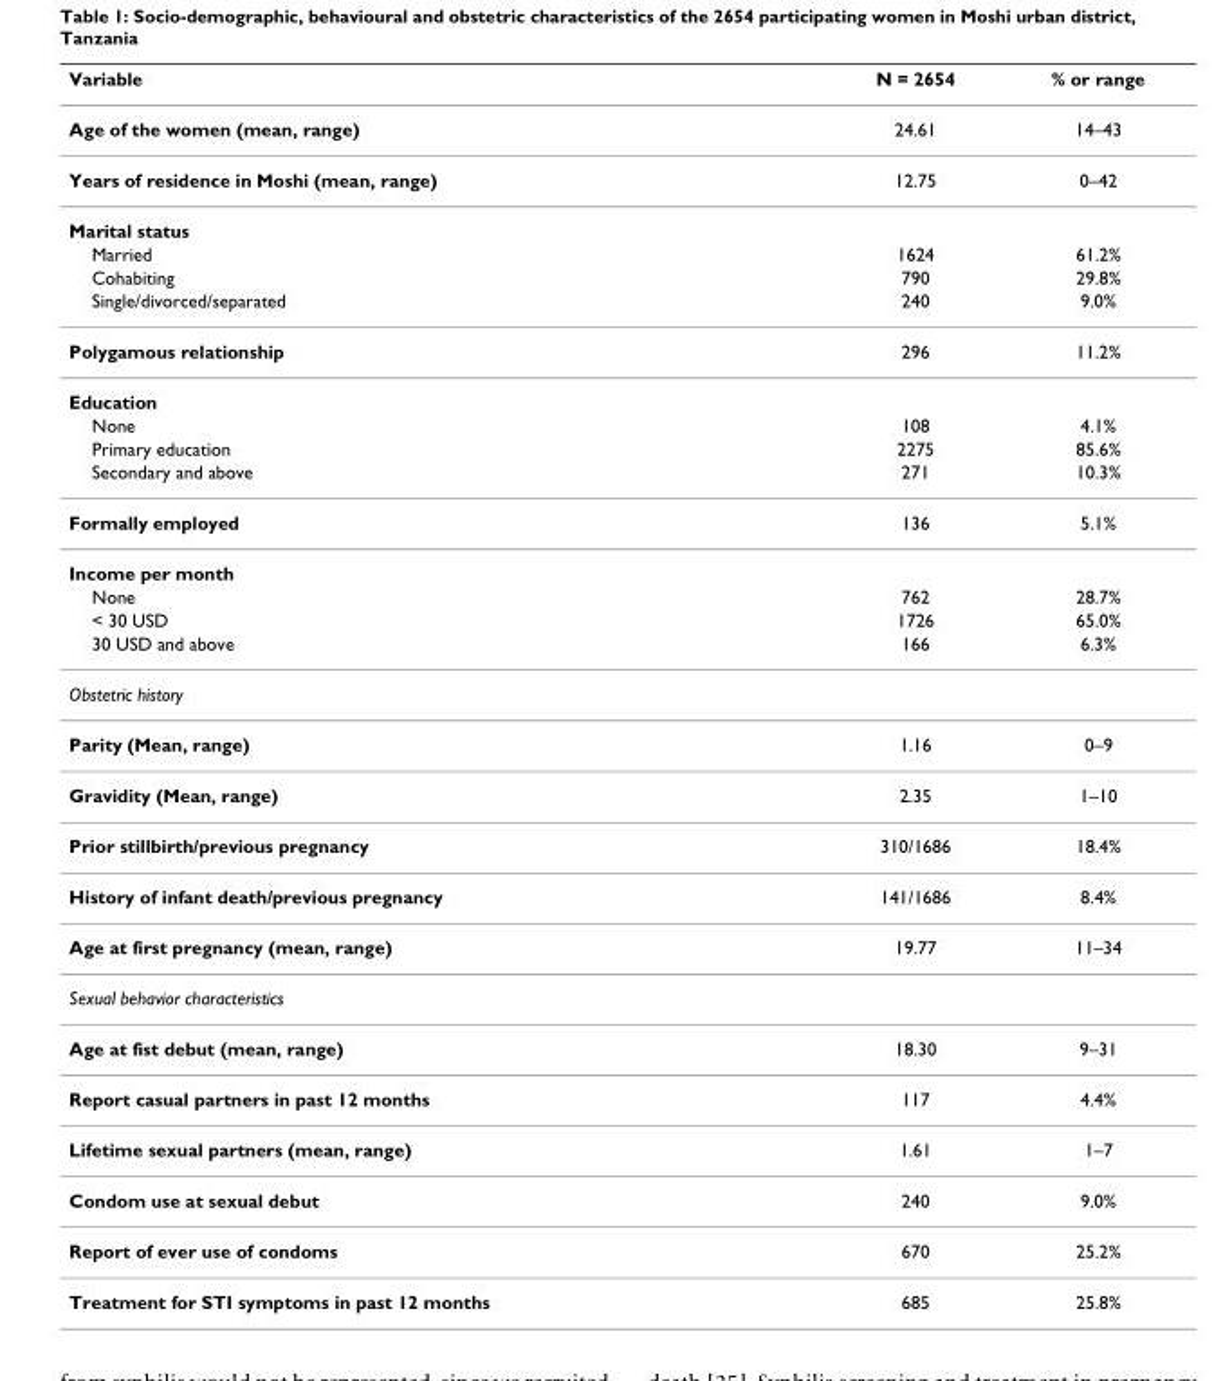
<table><thead><tr><td>Variable</td><td>N = 2654</td><td>% or range</td></tr></thead><tbody><tr><td>Age of the women (mean, range)</td><td>24.61</td><td>14–43</td></tr><tr><td>Years of residence in Moshi (mean, range)</td><td>12.75</td><td>0–42</td></tr><tr><td colspan="3">Marital status</td></tr><tr><td>Married</td><td>1624</td><td>61.2%</td></tr><tr><td>Cohabiting</td><td>790</td><td>29.8%</td></tr><tr><td>Single/divorced/separated</td><td>240</td><td>9.0%</td></tr><tr><td>Polygamous relationship</td><td>296</td><td>11.2%</td></tr><tr><td colspan="3">Education</td></tr><tr><td>None</td><td>108</td><td>4.1%</td></tr><tr><td>Primary education</td><td>2275</td><td>85.6%</td></tr><tr><td>Secondary and above</td><td>271</td><td>10.3%</td></tr><tr><td>Formally employed</td><td>136</td><td>5.1%</td></tr><tr><td colspan="3">Income per month</td></tr><tr><td>None</td><td>762</td><td>28.7%</td></tr><tr><td>&lt; 30 USD</td><td>1726</td><td>65.0%</td></tr><tr><td>30 USD and above</td><td>166</td><td>6.3%</td></tr><tr><td colspan="3">Obstetric history</td></tr><tr><td>Parity (Mean, range)</td><td>1.16</td><td>0–9</td></tr><tr><td>Gravidity (Mean, range)</td><td>2.35</td><td>1–10</td></tr><tr><td>Prior stillbirth/previous pregnancy</td><td>310/1686</td><td>18.4%</td></tr><tr><td>History of infant death/previous pregnancy</td><td>141/1686</td><td>8.4%</td></tr><tr><td>Age at first pregnancy (mean, range)</td><td>19.77</td><td>11–34</td></tr><tr><td colspan="3">Sexual behavior characteristics</td></tr><tr><td>Age at fist debut (mean, range)</td><td>18.30</td><td>9–31</td></tr><tr><td>Report casual partners in past 12 months</td><td>117</td><td>4.4%</td></tr><tr><td>Lifetime sexual partners (mean, range)</td><td>1.61</td><td>1–7</td></tr><tr><td>Condom use at sexual debut</td><td>240</td><td>9.0%</td></tr><tr><td>Report of ever use of condoms</td><td>670</td><td>25.2%</td></tr><tr><td>Treatment for STI symptoms in past 12 months</td><td>685</td><td>25.8%</td></tr></tbody></table>